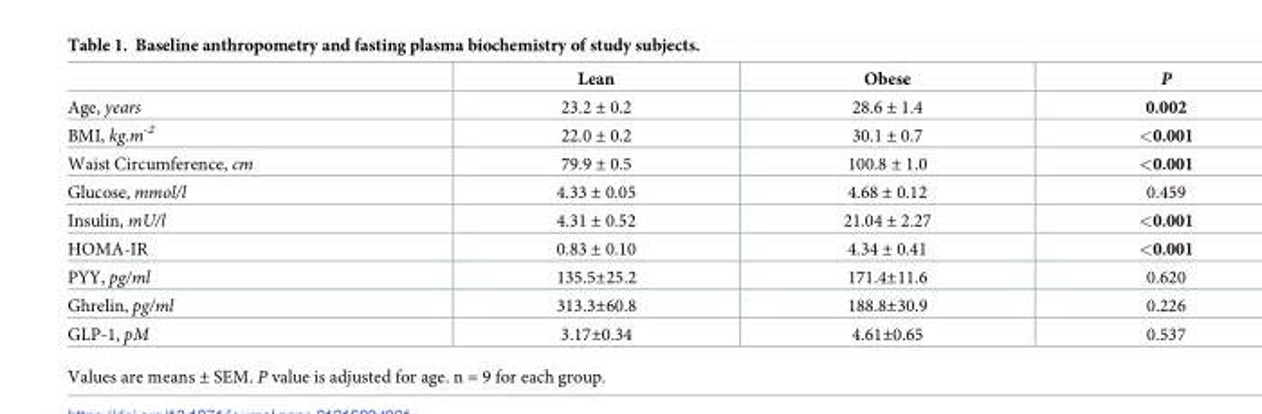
<table><thead><tr><td></td><td>Lean</td><td>Obese</td><td>P</td></tr></thead><tbody><tr><td>Age, years</td><td>23.2 ± 0.2</td><td>28.6 ± 1.4</td><td>0.002</td></tr><tr><td>BMI, kg.m<sup>-2</sup></td><td>22.0 ± 0.2</td><td>30.1 ± 0.7</td><td>&lt;0.001</td></tr><tr><td>Waist Circumference, cm</td><td>79.9 ± 0.5</td><td>100.8 ± 1.0</td><td>&lt;0.001</td></tr><tr><td>Glucose, mmol/l</td><td>4.33 ± 0.05</td><td>4.68 ± 0.12</td><td>0.459</td></tr><tr><td>Insulin, mU/l</td><td>4.31 ± 0.52</td><td>21.04 ± 2.27</td><td>&lt;0.001</td></tr><tr><td>HOMA-IR</td><td>0.83 ± 0.10</td><td>4.34 ± 0.41</td><td>&lt;0.001</td></tr><tr><td>PYY, pg/ml</td><td>135.5±25.2</td><td>171.4±11.6</td><td>0.620</td></tr><tr><td>Ghrelin, pg/ml</td><td>313.3±60.8</td><td>188.8±30.9</td><td>0.226</td></tr><tr><td>GLP-1, pM</td><td>3.17±0.34</td><td>4.61±0.65</td><td>0.537</td></tr></tbody></table>